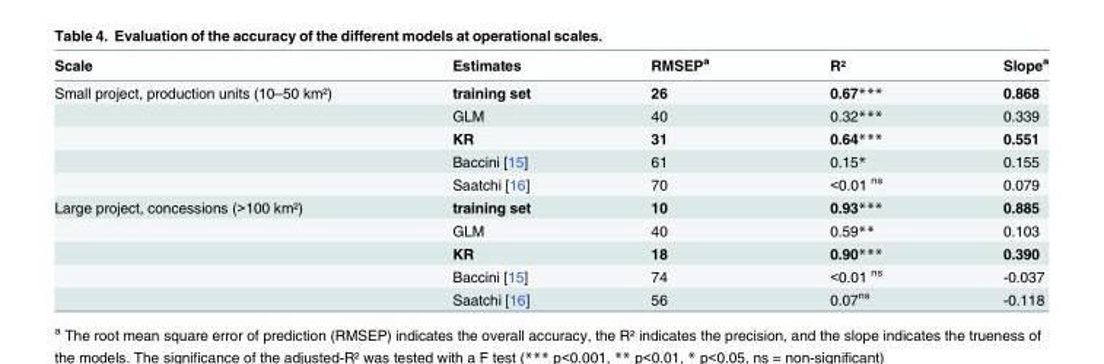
<table><thead><tr><td>Scale</td><td>Estimates</td><td>RMSEP<sup>a</sup></td><td>R²</td><td>Slope<sup>a</sup></td></tr></thead><tbody><tr><td rowspan="5">Small project, production units (10–50 km²)</td><td>training set</td><td>26</td><td>0.67***</td><td>0.868</td></tr><tr><td>GLM</td><td>40</td><td>0.32***</td><td>0.339</td></tr><tr><td>KR</td><td>31</td><td>0.64***</td><td>0.551</td></tr><tr><td>Baccini [15]</td><td>61</td><td>0.15*</td><td>0.155</td></tr><tr><td>Saatchi [16]</td><td>70</td><td>&lt;0.01 <sup>ns</sup></td><td>0.079</td></tr><tr><td rowspan="5">Large project, concessions (&gt;100 km²)</td><td>training set</td><td>10</td><td>0.93***</td><td>0.885</td></tr><tr><td>GLM</td><td>40</td><td>0.59**</td><td>0.103</td></tr><tr><td>KR</td><td>18</td><td>0.90***</td><td>0.390</td></tr><tr><td>Baccini [15]</td><td>74</td><td>&lt;0.01 <sup>ns</sup></td><td>-0.037</td></tr><tr><td>Saatchi [16]</td><td>56</td><td>0.07<sup>ns</sup></td><td>-0.118</td></tr></tbody></table>